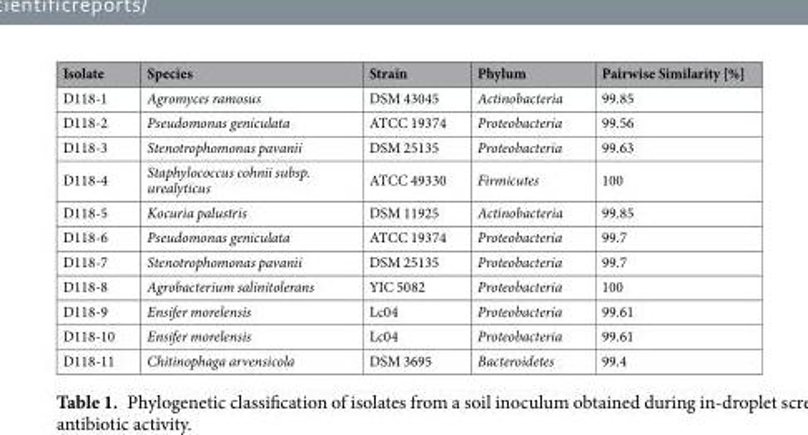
<table><thead><tr><td>Isolate</td><td>Species</td><td>Strain</td><td>Phylum</td><td>Pairwise Similarity [%]</td></tr></thead><tbody><tr><td>D118-1</td><td>Agromyces ramosus</td><td>DSM 43045</td><td>Actinobacteria</td><td>99.85</td></tr><tr><td>D118-2</td><td>Pseudomonas geniculata</td><td>ATCC 19374</td><td>Proteobacteria</td><td>99.56</td></tr><tr><td>D118-3</td><td>Stenotrophomonas pavanii</td><td>DSM 25135</td><td>Proteobacteria</td><td>99.63</td></tr><tr><td>D118-4</td><td>Staphylococcus cohnii subsp. urealyticus</td><td>ATCC 49330</td><td>Firmicutes</td><td>100</td></tr><tr><td>D118-5</td><td>Kocuria palustris</td><td>DSM 11925</td><td>Actinobacteria</td><td>99.85</td></tr><tr><td>D118-6</td><td>Pseudomonas geniculata</td><td>ATCC 19374</td><td>Proteobacteria</td><td>99.7</td></tr><tr><td>D118-7</td><td>Stenotrophomonas pavanii</td><td>DSM 25135</td><td>Proteobacteria</td><td>99.7</td></tr><tr><td>D118-8</td><td>Agrobacterium salinitolerans</td><td>YIC 5082</td><td>Proteobacteria</td><td>100</td></tr><tr><td>D118-9</td><td>Ensifer morelensis</td><td>Lc04</td><td>Proteobacteria</td><td>99.61</td></tr><tr><td>D118-10</td><td>Ensifer morelensis</td><td>Lc04</td><td>Proteobacteria</td><td>99.61</td></tr><tr><td>D118-11</td><td>Chitinophaga arvensicola</td><td>DSM 3695</td><td>Bacteroidetes</td><td>99.4</td></tr></tbody></table>